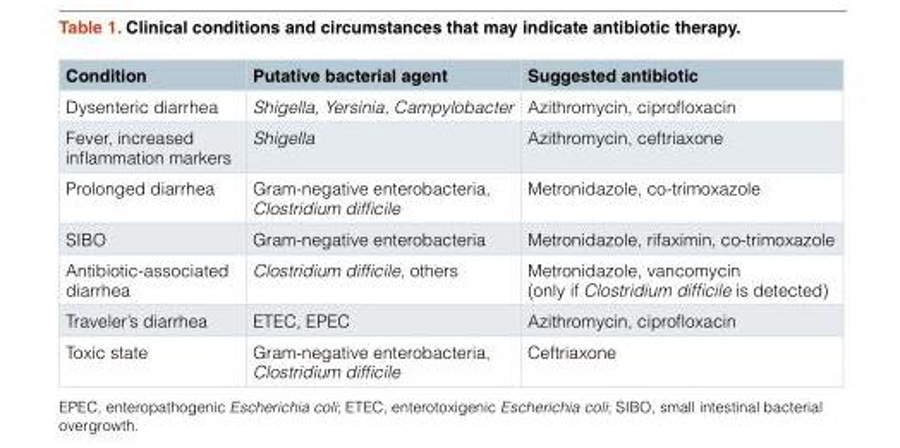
<table><thead><tr><td>Condition</td><td>Putative bacterial agent</td><td>Suggested antibiotic</td></tr></thead><tbody><tr><td>Dysenteric diarrhea</td><td>Shigella, Yersinia, Campylobacter</td><td>Azithromycin, ciprofloxacin</td></tr><tr><td>Fever, increased inflammation markers</td><td>Shigella</td><td>Azithromycin, ceftriaxone</td></tr><tr><td>Prolonged diarrhea</td><td>Gram-negative enterobacteria, Clostridium difficile</td><td>Metronidazole, co-trimoxazole</td></tr><tr><td>SIBO</td><td>Gram-negative enterobacteria</td><td>Metronidazole, rifaximin, co-trimoxazole</td></tr><tr><td>Antibiotic-associated diarrhea</td><td>Clostridium difficile, others</td><td>Metronidazole, vancomycin (only if Clostridium difficile is detected)</td></tr><tr><td>Traveler’s diarrhea</td><td>ETEC, EPEC</td><td>Azithromycin, ciprofloxacin</td></tr><tr><td>Toxic state</td><td>Gram-negative enterobacteria, Clostridium difficile</td><td>Ceftriaxone</td></tr></tbody></table>